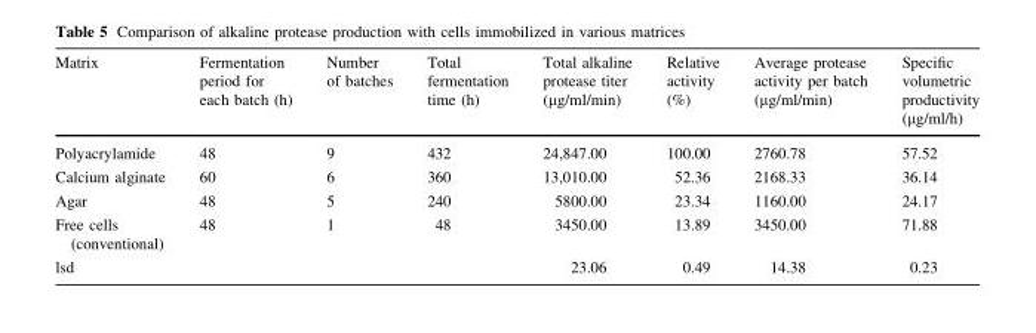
<table><thead><tr><td>Matrix</td><td>Fermentation period for each batch (h)</td><td>Number of batches</td><td>Total fermentation time (h)</td><td>Total alkaline protease titer (µg/ml/min)</td><td>Relative activity (%)</td><td>Average protease activity per batch (µg/ml/min)</td><td>Specific volumetric productivity (µg/ml/h)</td></tr></thead><tbody><tr><td>Polyacrylamide</td><td>48</td><td>9</td><td>432</td><td>24,847.00</td><td>100.00</td><td>2760.78</td><td>57.52</td></tr><tr><td>Calcium alginate</td><td>60</td><td>6</td><td>360</td><td>13,010.00</td><td>52.36</td><td>2168.33</td><td>36.14</td></tr><tr><td>Agar</td><td>48</td><td>5</td><td>240</td><td>5800.00</td><td>23.34</td><td>1160.00</td><td>24.17</td></tr><tr><td>Free cells (conventional)</td><td>48</td><td>1</td><td>48</td><td>3450.00</td><td>13.89</td><td>3450.00</td><td>71.88</td></tr><tr><td>lsd</td><td colspan="3"></td><td>23.06</td><td>0.49</td><td>14.38</td><td>0.23</td></tr></tbody></table>